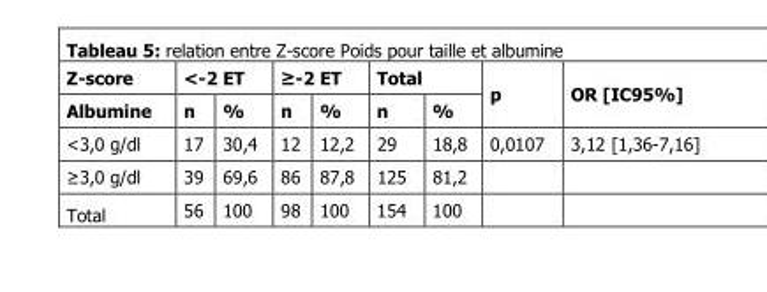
<table><thead><tr><td rowspan="2">Z-score Albumine</td><td colspan="2">&lt;-2 ET</td><td colspan="2">≥-2 ET</td><td colspan="2">Total</td><td rowspan="2">p</td><td rowspan="2">OR [IC95%]</td></tr><tr><td>n</td><td>%</td><td>n</td><td>%</td><td>n</td><td>%</td></tr></thead><tbody><tr><td>&lt;3,0 g/dl</td><td>17</td><td>30,4</td><td>12</td><td>12,2</td><td>29</td><td>18,8</td><td>0,0107</td><td>3,12 [1,36-7,16]</td></tr><tr><td>≥3,0 g/dl</td><td>39</td><td>69,6</td><td>86</td><td>87,8</td><td>125</td><td>81,2</td><td></td><td></td></tr><tr><td>Total</td><td>56</td><td>100</td><td>98</td><td>100</td><td>154</td><td>100</td><td></td><td></td></tr></tbody></table>